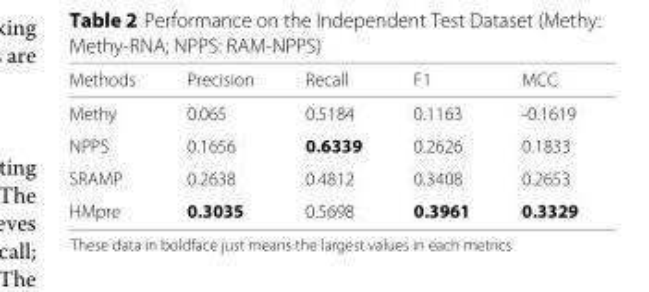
<table><thead><tr><td>Methods</td><td>Precision</td><td>Recall</td><td>F1</td><td>MCC</td></tr></thead><tbody><tr><td>Methy</td><td>0.065</td><td>0.5184</td><td>0.1163</td><td>-0.1619</td></tr><tr><td>NPPS</td><td>0.1656</td><td>0.6339</td><td>0.2626</td><td>0.1833</td></tr><tr><td>SRAMP</td><td>0.2638</td><td>0.4812</td><td>0.3408</td><td>0.2653</td></tr><tr><td>HMpre</td><td>0.3035</td><td>0.5698</td><td>0.3961</td><td>0.3329</td></tr></tbody></table>